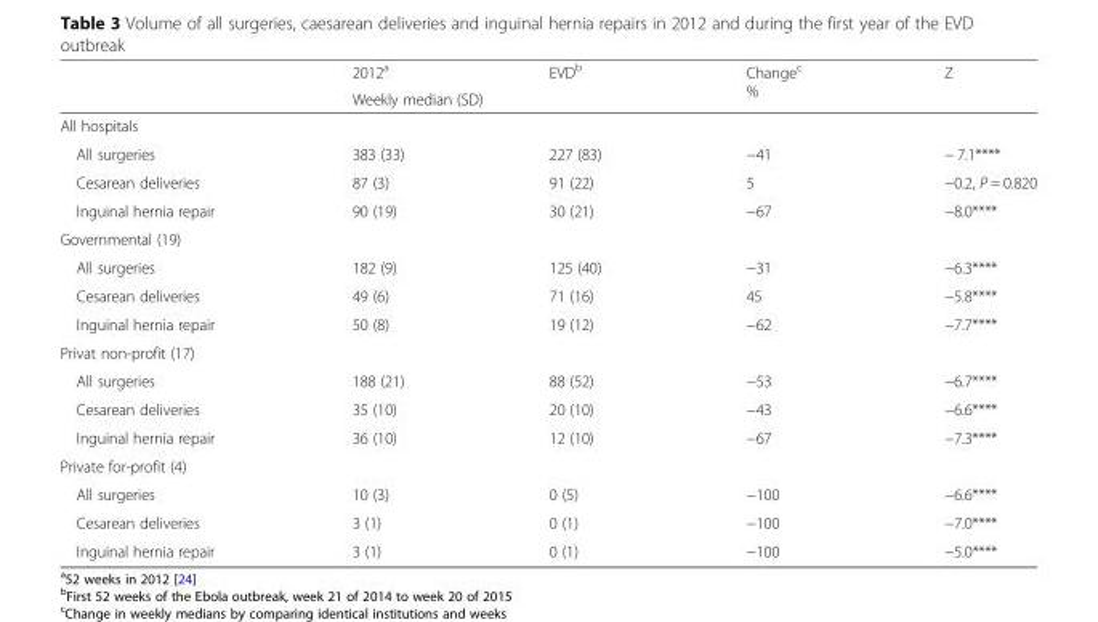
<table><thead><tr><td rowspan="2"></td><td>2012<sup>a</sup></td><td>EVD<sup>b</sup></td><td rowspan="2">Change<sup>c</sup> %</td><td rowspan="2">Z</td></tr><tr><td colspan="2">Weekly median (SD)</td></tr></thead><tbody><tr><td colspan="5">All hospitals</td></tr><tr><td>All surgeries</td><td>383 (33)</td><td>227 (83)</td><td>−41</td><td>− 7.1****</td></tr><tr><td>Cesarean deliveries</td><td>87 (3)</td><td>91 (22)</td><td>5</td><td>−0.2, P = 0.820</td></tr><tr><td>Inguinal hernia repair</td><td>90 (19)</td><td>30 (21)</td><td>−67</td><td>−8.0****</td></tr><tr><td colspan="5">Governmental (19)</td></tr><tr><td>All surgeries</td><td>182 (9)</td><td>125 (40)</td><td>−31</td><td>−6.3****</td></tr><tr><td>Cesarean deliveries</td><td>49 (6)</td><td>71 (16)</td><td>45</td><td>−5.8****</td></tr><tr><td>Inguinal hernia repair</td><td>50 (8)</td><td>19 (12)</td><td>−62</td><td>−7.7****</td></tr><tr><td colspan="5">Privat non-profit (17)</td></tr><tr><td>All surgeries</td><td>188 (21)</td><td>88 (52)</td><td>−53</td><td>−6.7****</td></tr><tr><td>Cesarean deliveries</td><td>35 (10)</td><td>20 (10)</td><td>−43</td><td>−6.6****</td></tr><tr><td>Inguinal hernia repair</td><td>36 (10)</td><td>12 (10)</td><td>−67</td><td>−7.3****</td></tr><tr><td colspan="5">Private for-profit (4)</td></tr><tr><td>All surgeries</td><td>10 (3)</td><td>0 (5)</td><td>−100</td><td>−6.6****</td></tr><tr><td>Cesarean deliveries</td><td>3 (1)</td><td>0 (1)</td><td>−100</td><td>−7.0****</td></tr><tr><td>Inguinal hernia repair</td><td>3 (1)</td><td>0 (1)</td><td>−100</td><td>−5.0****</td></tr></tbody></table>